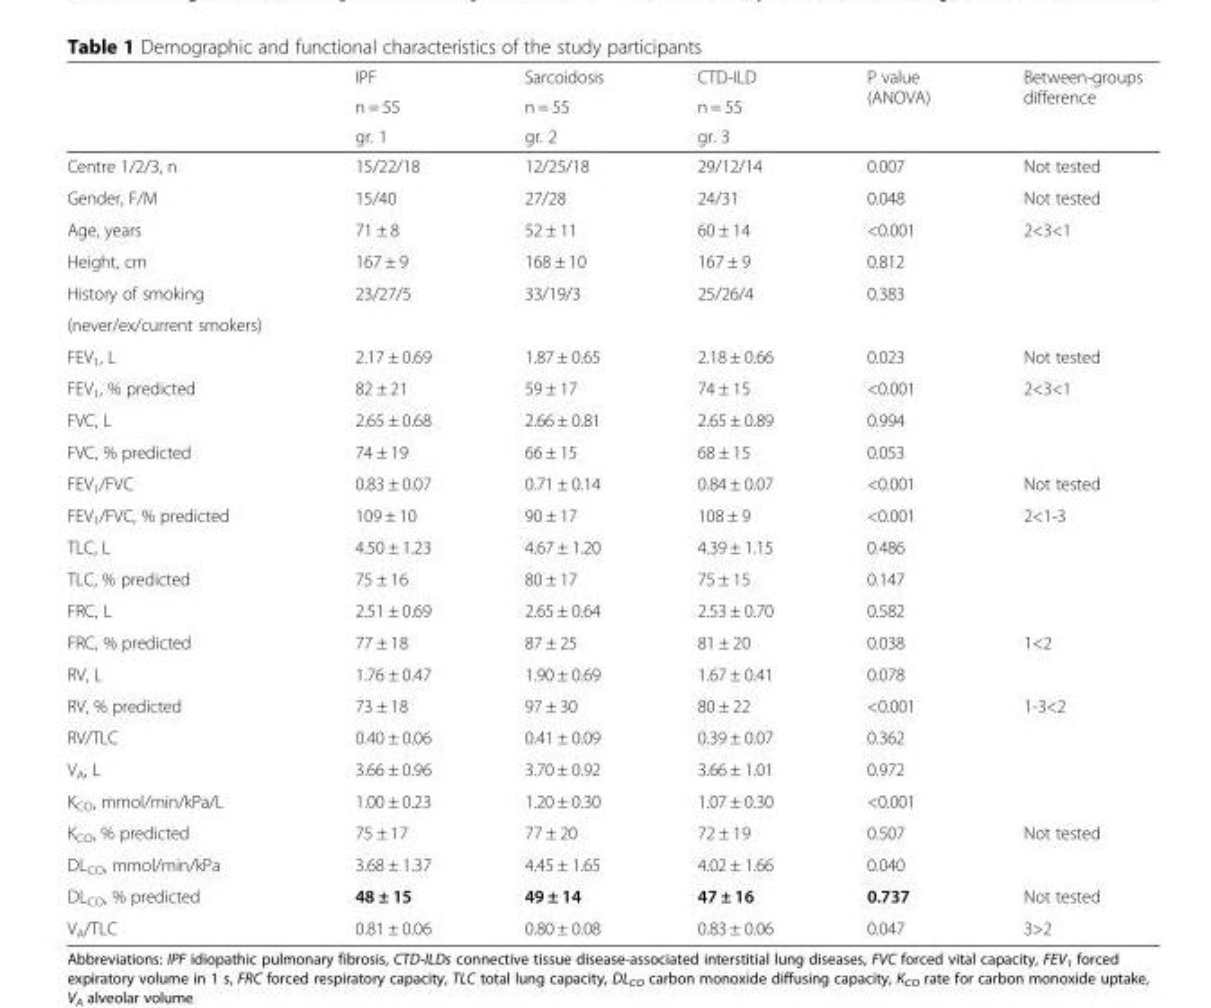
<table><thead><tr><td rowspan="3"></td><td rowspan="3">IPF n = 55 gr. 1</td><td rowspan="3">Sarcoidosis n = 55 gr. 2</td><td rowspan="3">CTD-ILD n = 55 gr. 3</td><td rowspan="3">P value (ANOVA)</td><td rowspan="3">Between-groups difference</td></tr><tr></tr><tr></tr></thead><tbody><tr><td>Centre 1/2/3, n</td><td>15/22/18</td><td>12/25/18</td><td>29/12/14</td><td>0.007</td><td>Not tested</td></tr><tr><td>Gender, F/M</td><td>15/40</td><td>27/28</td><td>24/31</td><td>0.048</td><td>Not tested</td></tr><tr><td>Age, years</td><td>71 ± 8</td><td>52 ± 11</td><td>60 ± 14</td><td>&lt;0.001</td><td>2&lt;3&lt;1</td></tr><tr><td>Height, cm</td><td>167 ± 9</td><td>168 ± 10</td><td>167 ± 9</td><td>0.812</td><td></td></tr><tr><td>History of smoking</td><td>23/27/5</td><td>33/19/3</td><td>25/26/4</td><td>0.383</td><td></td></tr><tr><td colspan="6">(never/ex/current smokers)</td></tr><tr><td>FEV<sub>1</sub>, L</td><td>2.17 ± 0.69</td><td>1.87 ± 0.65</td><td>2.18 ± 0.66</td><td>0.023</td><td>Not tested</td></tr><tr><td>FEV<sub>1</sub>, % predicted</td><td>82 ± 21</td><td>59 ± 17</td><td>74 ± 15</td><td>&lt;0.001</td><td>2&lt;3&lt;1</td></tr><tr><td>FVC, L</td><td>2.65 ± 0.68</td><td>2.66 ± 0.81</td><td>2.65 ± 0.89</td><td>0.994</td><td></td></tr><tr><td>FVC, % predicted</td><td>74 ± 19</td><td>66 ± 15</td><td>68 ± 15</td><td>0.053</td><td></td></tr><tr><td>FEV<sub>1</sub>/FVC</td><td>0.83 ± 0.07</td><td>0.71 ± 0.14</td><td>0.84 ± 0.07</td><td>&lt;0.001</td><td>Not tested</td></tr><tr><td>FEV<sub>1</sub>/FVC, % predicted</td><td>109 ± 10</td><td>90 ± 17</td><td>108 ± 9</td><td>&lt;0.001</td><td>2&lt;1-3</td></tr><tr><td>TLC, L</td><td>4.50 ± 1.23</td><td>4.67 ± 1.20</td><td>4.39 ± 1.15</td><td>0.486</td><td></td></tr><tr><td>TLC, % predicted</td><td>75 ± 16</td><td>80 ± 17</td><td>75 ± 15</td><td>0.147</td><td></td></tr><tr><td>FRC, L</td><td>2.51 ± 0.69</td><td>2.65 ± 0.64</td><td>2.53 ± 0.70</td><td>0.582</td><td></td></tr><tr><td>FRC, % predicted</td><td>77 ± 18</td><td>87 ± 25</td><td>81 ± 20</td><td>0.038</td><td>1&lt;2</td></tr><tr><td>RV, L</td><td>1.76 ± 0.47</td><td>1.90 ± 0.69</td><td>1.67 ± 0.41</td><td>0.078</td><td></td></tr><tr><td>RV, % predicted</td><td>73 ± 18</td><td>97 ± 30</td><td>80 ± 22</td><td>&lt;0.001</td><td>1-3&lt;2</td></tr><tr><td>RV/TLC</td><td>0.40 ± 0.06</td><td>0.41 ± 0.09</td><td>0.39 ± 0.07</td><td>0.362</td><td></td></tr><tr><td>V<sub>A</sub>, L</td><td>3.66 ± 0.96</td><td>3.70 ± 0.92</td><td>3.66 ± 1.01</td><td>0.972</td><td></td></tr><tr><td>K<sub>CO</sub>, mmol/min/kPa/L</td><td>1.00 ± 0.23</td><td>1.20 ± 0.30</td><td>1.07 ± 0.30</td><td>&lt;0.001</td><td></td></tr><tr><td>K<sub>CO</sub>, % predicted</td><td>75 ± 17</td><td>77 ± 20</td><td>72 ± 19</td><td>0.507</td><td>Not tested</td></tr><tr><td>DL<sub>CO</sub>, mmol/min/kPa</td><td>3.68 ± 1.37</td><td>4.45 ± 1.65</td><td>4.02 ± 1.66</td><td>0.040</td><td></td></tr><tr><td>DL<sub>CO</sub>, % predicted</td><td>48 ± 15</td><td>49 ± 14</td><td>47 ± 16</td><td>0.737</td><td>Not tested</td></tr><tr><td>V<sub>A</sub>/TLC</td><td>0.81 ± 0.06</td><td>0.80 ± 0.08</td><td>0.83 ± 0.06</td><td>0.047</td><td>3&gt;2</td></tr></tbody></table>